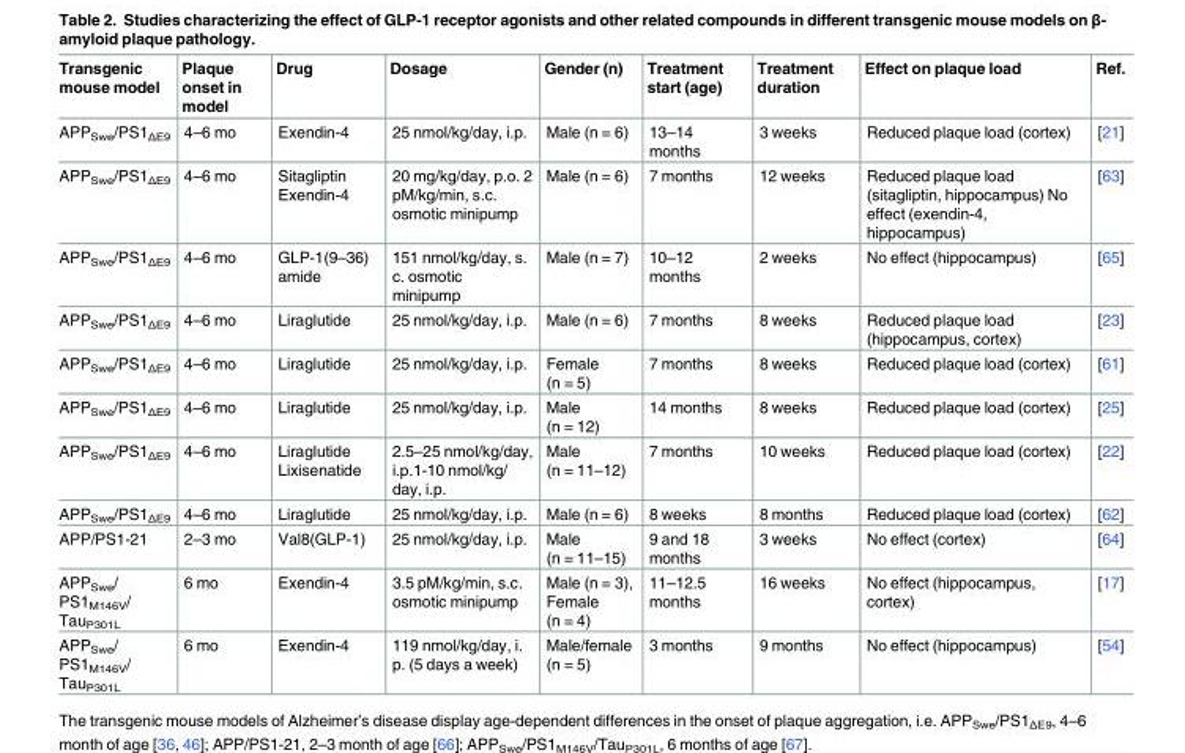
<table><thead><tr><td>Transgenic mouse model</td><td>Plaque onset in model</td><td>Drug</td><td>Dosage</td><td>Gender (n)</td><td>Treatment start (age)</td><td>Treatment duration</td><td>Effect on plaque load</td><td>Ref.</td></tr></thead><tbody><tr><td>APP<sub>Swe</sub>/PS1<sub>ΔE9</sub></td><td>4–6 mo</td><td>Exendin-4</td><td>25 nmol/kg/day, i.p.</td><td>Male (n = 6)</td><td>13–14 months</td><td>3 weeks</td><td>Reduced plaque load (cortex)</td><td>[21]</td></tr><tr><td>APP<sub>Swe</sub>/PS1<sub>ΔE9</sub></td><td>4–6 mo</td><td>Sitagliptin Exendin-4</td><td>20 mg/kg/day, p.o. 2 pM/kg/min, s.c. osmotic minipump</td><td>Male (n = 6)</td><td>7 months</td><td>12 weeks</td><td>Reduced plaque load (sitagliptin, hippocampus) No effect (exendin-4, hippocampus)</td><td>[63]</td></tr><tr><td>APP<sub>Swe</sub>/PS1<sub>ΔE9</sub></td><td>4–6 mo</td><td>GLP-1(9–36) amide</td><td>151 nmol/kg/day, s. c. osmotic minipump</td><td>Male (n = 7)</td><td>10–12 months</td><td>2 weeks</td><td>No effect (hippocampus)</td><td>[65]</td></tr><tr><td>APP<sub>Swe</sub>/PS1<sub>ΔE9</sub></td><td>4–6 mo</td><td>Liraglutide</td><td>25 nmol/kg/day, i.p.</td><td>Male (n = 6)</td><td>7 months</td><td>8 weeks</td><td>Reduced plaque load (hippocampus, cortex)</td><td>[23]</td></tr><tr><td>APP<sub>Swe</sub>/PS1<sub>ΔE9</sub></td><td>4–6 mo</td><td>Liraglutide</td><td>25 nmol/kg/day, i.p.</td><td>Female (n = 5)</td><td>7 months</td><td>8 weeks</td><td>Reduced plaque load (cortex)</td><td>[61]</td></tr><tr><td>APP<sub>Swe</sub>/PS1<sub>ΔE9</sub></td><td>4–6 mo</td><td>Liraglutide</td><td>25 nmol/kg/day, i.p.</td><td>Male (n = 12)</td><td>14 months</td><td>8 weeks</td><td>Reduced plaque load (cortex)</td><td>[25]</td></tr><tr><td>APP<sub>Swe</sub>/PS1<sub>ΔE9</sub></td><td>4–6 mo</td><td>Liraglutide Lixisenatide</td><td>2.5–25 nmol/kg/day, i.p.1-10 nmol/kg/ day, i.p.</td><td>Male (n = 11–12)</td><td>7 months</td><td>10 weeks</td><td>Reduced plaque load (cortex)</td><td>[22]</td></tr><tr><td>APP<sub>Swe</sub>/PS1<sub>ΔE9</sub></td><td>4–6 mo</td><td>Liraglutide</td><td>25 nmol/kg/day, i.p.</td><td>Male (n = 6)</td><td>8 weeks</td><td>8 months</td><td>Reduced plaque load (cortex)</td><td>[62]</td></tr><tr><td>APP/PS1-21</td><td>2–3 mo</td><td>Val8(GLP-1)</td><td>25 nmol/kg/day, i.p.</td><td>Male (n = 11–15)</td><td>9 and 18 months</td><td>3 weeks</td><td>No effect (cortex)</td><td>[64]</td></tr><tr><td>APP<sub>Swe</sub>/ PS1<sub>M146V</sub>/ Tau<sub>P301L</sub></td><td>6 mo</td><td>Exendin-4</td><td>3.5 pM/kg/min, s.c. osmotic minipump</td><td>Male (n = 3), Female (n = 4)</td><td>11–12.5 months</td><td>16 weeks</td><td>No effect (hippocampus, cortex)</td><td>[17]</td></tr><tr><td>APP<sub>Swe</sub>/ PS1<sub>M146V</sub>/ Tau<sub>P301L</sub></td><td>6 mo</td><td>Exendin-4</td><td>119 nmol/kg/day, i. p. (5 days a week)</td><td>Male/female (n = 5)</td><td>3 months</td><td>9 months</td><td>No effect (hippocampus)</td><td>[54]</td></tr></tbody></table>